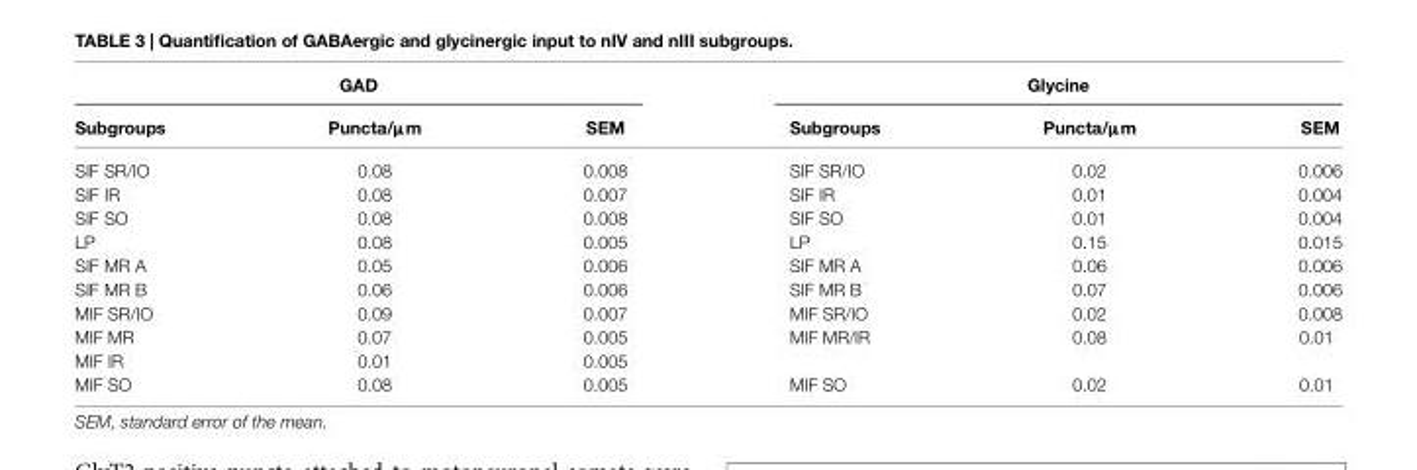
<table><thead><tr><td colspan="3">GAD</td><td colspan="3">Glycine</td></tr><tr><td>Subgroups</td><td>Puncta/µµµm</td><td>SEM</td><td>Subgroups</td><td>Puncta/µµµm</td><td>SEM</td></tr></thead><tbody><tr><td>SIF SR/IO</td><td>0.08</td><td>0.008</td><td>SIF SR/IO</td><td>0.02</td><td>0.006</td></tr><tr><td>SIF IR</td><td>0.08</td><td>0.007</td><td>SIF IR</td><td>0.01</td><td>0.004</td></tr><tr><td>SIF SO</td><td>0.08</td><td>0.008</td><td>SIF SO</td><td>0.01</td><td>0.004</td></tr><tr><td>LP</td><td>0.08</td><td>0.005</td><td>LP</td><td>0.15</td><td>0.015</td></tr><tr><td>SIF MR A</td><td>0.05</td><td>0.006</td><td>SIF MR A</td><td>0.06</td><td>0.006</td></tr><tr><td>SIF MR B</td><td>0.06</td><td>0.006</td><td>SIF MR B</td><td>0.07</td><td>0.006</td></tr><tr><td>MIF SR/IO</td><td>0.09</td><td>0.007</td><td>MIF SR/IO</td><td>0.02</td><td>0.008</td></tr><tr><td>MIF MR</td><td>0.07</td><td>0.005</td><td>MIF MR/IR</td><td>0.08</td><td>0.01</td></tr><tr><td>MIF IR</td><td>0.01</td><td>0.005</td><td></td><td></td><td></td></tr><tr><td>MIF SO</td><td>0.08</td><td>0.005</td><td>MIF SO</td><td>0.02</td><td>0.01</td></tr></tbody></table>